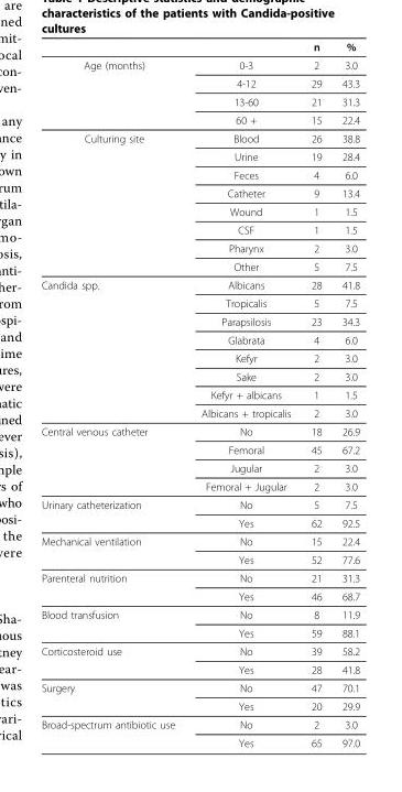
<table><thead><tr><td></td><td></td><td>n</td><td>%</td></tr></thead><tbody><tr><td rowspan="4">Age (months)</td><td>0-3</td><td>2</td><td>3.0</td></tr><tr><td>4-12</td><td>29</td><td>43.3</td></tr><tr><td>13-60</td><td>21</td><td>31.3</td></tr><tr><td>60 +</td><td>15</td><td>22.4</td></tr><tr><td rowspan="8">Culturing site</td><td>Blood</td><td>26</td><td>38.8</td></tr><tr><td>Urine</td><td>19</td><td>28.4</td></tr><tr><td>Feces</td><td>4</td><td>6.0</td></tr><tr><td>Catheter</td><td>9</td><td>13.4</td></tr><tr><td>Wound</td><td>1</td><td>1.5</td></tr><tr><td>CSF</td><td>1</td><td>1.5</td></tr><tr><td>Pharynx</td><td>2</td><td>3.0</td></tr><tr><td>Other</td><td>5</td><td>7.5</td></tr><tr><td rowspan="8">Candida spp.</td><td>Albicans</td><td>28</td><td>41.8</td></tr><tr><td>Tropicalis</td><td>5</td><td>7.5</td></tr><tr><td>Parapsilosis</td><td>23</td><td>34.3</td></tr><tr><td>Glabrata</td><td>4</td><td>6.0</td></tr><tr><td>Kefyr</td><td>2</td><td>3.0</td></tr><tr><td>Sake</td><td>2</td><td>3.0</td></tr><tr><td>Kefyr + albicans</td><td>1</td><td>1.5</td></tr><tr><td>Albicans + tropicalis</td><td>2</td><td>3.0</td></tr><tr><td rowspan="4">Central venous catheter</td><td>No</td><td>18</td><td>26.9</td></tr><tr><td>Femoral</td><td>45</td><td>67.2</td></tr><tr><td>Jugular</td><td>2</td><td>3.0</td></tr><tr><td>Femoral + Jugular</td><td>2</td><td>3.0</td></tr><tr><td rowspan="2">Urinary catheterization</td><td>No</td><td>5</td><td>7.5</td></tr><tr><td>Yes</td><td>62</td><td>92.5</td></tr><tr><td rowspan="2">Mechanical ventilation</td><td>No</td><td>15</td><td>22.4</td></tr><tr><td>Yes</td><td>52</td><td>77.6</td></tr><tr><td rowspan="2">Parenteral nutrition</td><td>No</td><td>21</td><td>31.3</td></tr><tr><td>Yes</td><td>46</td><td>68.7</td></tr><tr><td rowspan="2">Blood transfusion</td><td>No</td><td>8</td><td>11.9</td></tr><tr><td>Yes</td><td>59</td><td>88.1</td></tr><tr><td rowspan="2">Corticosteroid use</td><td>No</td><td>39</td><td>58.2</td></tr><tr><td>Yes</td><td>28</td><td>41.8</td></tr><tr><td rowspan="2">Surgery</td><td>No</td><td>47</td><td>70.1</td></tr><tr><td>Yes</td><td>20</td><td>29.9</td></tr><tr><td rowspan="2">Broad-spectrum antibiotic use</td><td>No</td><td>2</td><td>3.0</td></tr><tr><td>Yes</td><td>65</td><td>97.0</td></tr></tbody></table>